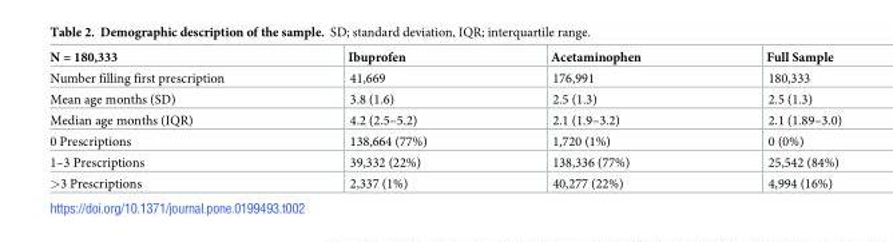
<table><thead><tr><td>N = 180,333</td><td>Ibuprofen</td><td>Acetaminophen</td><td>Full Sample</td></tr></thead><tbody><tr><td>Number filling first prescription</td><td>41,669</td><td>176,991</td><td>180,333</td></tr><tr><td>Mean age months (SD)</td><td>3.8 (1.6)</td><td>2.5 (1.3)</td><td>2.5 (1.3)</td></tr><tr><td>Median age months (IQR)</td><td>4.2 (2.5–5.2)</td><td>2.1 (1.9–3.2)</td><td>2.1 (1.89–3.0)</td></tr><tr><td>0 Prescriptions</td><td>138,664 (77%)</td><td>1,720 (1%)</td><td>0 (0%)</td></tr><tr><td>1–3 Prescriptions</td><td>39,332 (22%)</td><td>138,336 (77%)</td><td>25,542 (84%)</td></tr><tr><td>&gt;3 Prescriptions</td><td>2,337 (1%)</td><td>40,277 (22%)</td><td>4,994 (16%)</td></tr></tbody></table>